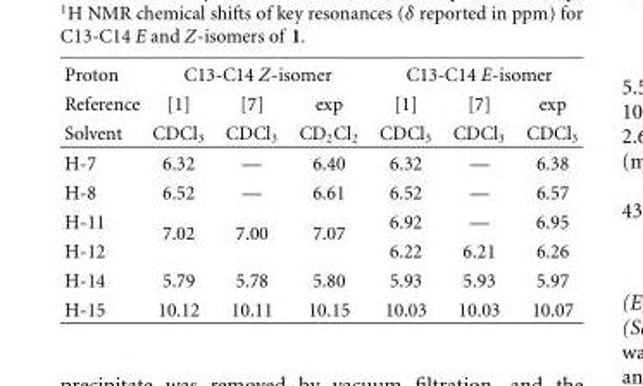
<table><tbody><tr><td>Proton</td><td colspan="3">C13-C14 Z-isomer</td><td colspan="3">C13-C14 E-isomer</td></tr><tr><td>Reference</td><td>[1]</td><td>[7]</td><td>exp</td><td>[1]</td><td>[7]</td><td>exp</td></tr><tr><td>Solvent</td><td>CDCl<sub>3</sub></td><td>CDCl<sub>3</sub></td><td>CD<sub>2</sub>Cl<sub>2</sub></td><td>CDCl<sub>3</sub></td><td>CDCl<sub>3</sub></td><td>CDCl<sub>3</sub></td></tr><tr><td>H-7</td><td>6.32</td><td>—</td><td>6.40</td><td>6.32</td><td>—</td><td>6.38</td></tr><tr><td>H-8</td><td>6.52</td><td>—</td><td>6.61</td><td>6.52</td><td>—</td><td>6.57</td></tr><tr><td>H-11</td><td rowspan="2">7.02</td><td rowspan="2">7.00</td><td rowspan="2">7.07</td><td>6.92</td><td>—</td><td>6.95</td></tr><tr><td>H-12</td><td>6.22</td><td>6.21</td><td>6.26</td></tr><tr><td>H-14</td><td>5.79</td><td>5.78</td><td>5.80</td><td>5.93</td><td>5.93</td><td>5.97</td></tr><tr><td>H-15</td><td>10.12</td><td>10.11</td><td>10.15</td><td>10.03</td><td>10.03</td><td>10.07</td></tr></tbody></table>